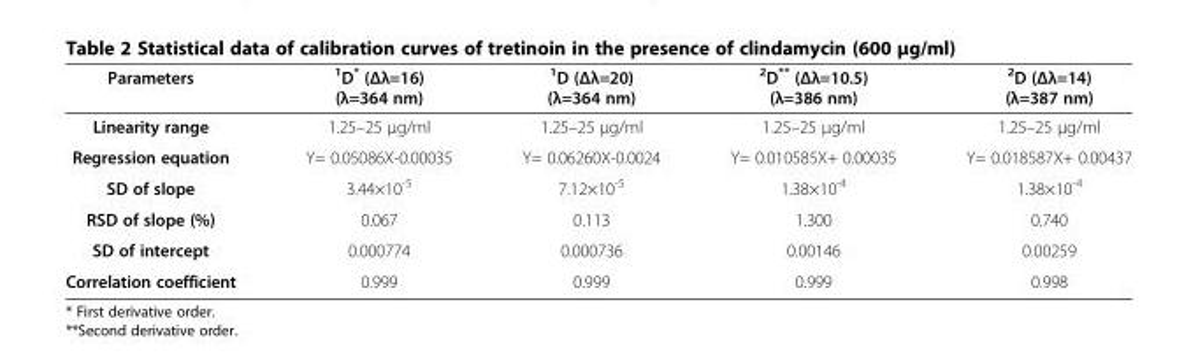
<table><thead><tr><td>Parameters</td><td><sup>1</sup>D* (Δλ=16) (λ=364 nm)</td><td><sup>1</sup>D (Δλ=20) (λ=364 nm)</td><td><sup>2</sup>D** (Δλ=10.5) (λ=386 nm)</td><td><sup>2</sup>D (Δλ=14) (λ=387 nm)</td></tr></thead><tbody><tr><td>Linearity range</td><td>1.25–25 μg/ml</td><td>1.25–25 μg/ml</td><td>1.25–25 μg/ml</td><td>1.25–25 μg/ml</td></tr><tr><td>Regression equation</td><td>Y= 0.05086X-0.00035</td><td>Y= 0.06260X-0.0024</td><td>Y= 0.010585X+ 0.00035</td><td>Y= 0.018587X+ 0.00437</td></tr><tr><td>SD of slope</td><td>3.44×10<sup>-5</sup></td><td>7.12×10<sup>-5</sup></td><td>1.38×10<sup>-4</sup></td><td>1.38×10<sup>-4</sup></td></tr><tr><td>RSD of slope (%)</td><td>0.067</td><td>0.113</td><td>1.300</td><td>0.740</td></tr><tr><td>SD of intercept</td><td>0.000774</td><td>0.000736</td><td>0.00146</td><td>0.00259</td></tr><tr><td>Correlation coefficient</td><td>0.999</td><td>0.999</td><td>0.999</td><td>0.998</td></tr></tbody></table>